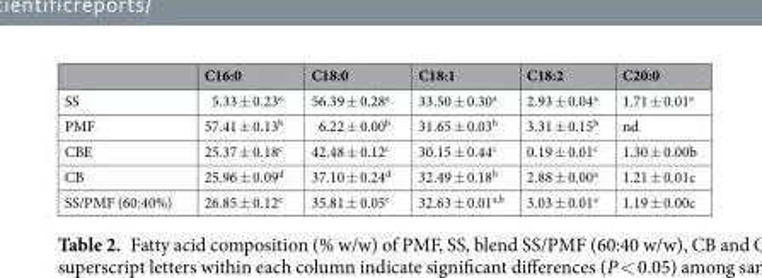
<table><thead><tr><td></td><td>C16:0</td><td>C18:0</td><td>C18:1</td><td>C18:2</td><td>C20:0</td></tr></thead><tbody><tr><td>SS</td><td>5.33 ± 0.23<sup>a</sup></td><td>56.39 ± 0.28<sup>a</sup></td><td>33.50 ± 0.30<sup>a</sup></td><td>2.93 ± 0.04<sup>a</sup></td><td>1.71 ± 0.01<sup>a</sup></td></tr><tr><td>PMF</td><td>57.41 ± 0.13<sup>b</sup></td><td>6.22 ± 0.00<sup>b</sup></td><td>31.65 ± 0.03<sup>b</sup></td><td>3.31 ± 0.15<sup>b</sup></td><td>nd</td></tr><tr><td>CBE</td><td>25.37 ± 0.18<sup>c</sup></td><td>42.48 ± 0.12<sup>c</sup></td><td>30.15 ± 0.44<sup>c</sup></td><td>0.19 ± 0.01<sup>c</sup></td><td>1.30 ± 0.00b</td></tr><tr><td>CB</td><td>25.96 ± 0.09<sup>d</sup></td><td>37.10 ± 0.24<sup>d</sup></td><td>32.49 ± 0.18<sup>b</sup></td><td>2.88 ± 0.00<sup>a</sup></td><td>1.21 ± 0.01c</td></tr><tr><td>SS/PMF (60:40%)</td><td>26.85 ± 0.12<sup>e</sup></td><td>35.81 ± 0.05<sup>e</sup></td><td>32.63 ± 0.01<sup>a,b</sup></td><td>3.03 ± 0.01<sup>a</sup></td><td>1.19 ± 0.00c</td></tr></tbody></table>